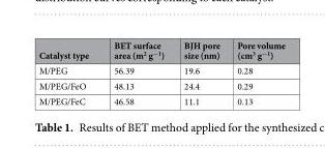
<table><thead><tr><td>Catalyst type</td><td>BET surface area (m<sup>2</sup> g<sup>−1</sup>)</td><td>BJH pore size (nm)</td><td>Pore volume (cm<sup>3</sup> g<sup>−1</sup>)</td></tr></thead><tbody><tr><td>M/PEG</td><td>56.39</td><td>19.6</td><td>0.28</td></tr><tr><td>M/PEG/FeO</td><td>48.13</td><td>24.4</td><td>0.29</td></tr><tr><td>M/PEG/FeC</td><td>46.58</td><td>11.1</td><td>0.13</td></tr></tbody></table>